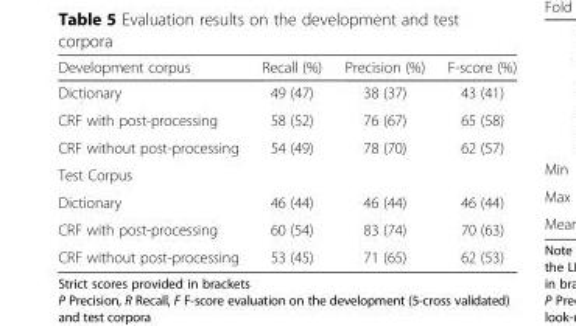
<table><thead><tr><td>Development corpus</td><td>Recall (%)</td><td>Precision (%)</td><td>F-score (%)</td></tr></thead><tbody><tr><td>Dictionary</td><td>49 (47)</td><td>38 (37)</td><td>43 (41)</td></tr><tr><td>CRF with post-processing</td><td>58 (52)</td><td>76 (67)</td><td>65 (58)</td></tr><tr><td>CRF without post-processing</td><td>54 (49)</td><td>78 (70)</td><td>62 (57)</td></tr><tr><td colspan="4">Test Corpus</td></tr><tr><td>Dictionary</td><td>46 (44)</td><td>46 (44)</td><td>46 (44)</td></tr><tr><td>CRF with post-processing</td><td>60 (54)</td><td>83 (74)</td><td>70 (63)</td></tr><tr><td>CRF without post-processing</td><td>53 (45)</td><td>71 (65)</td><td>62 (53)</td></tr></tbody></table>